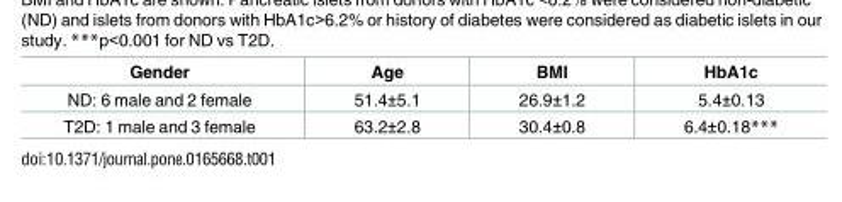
<table><thead><tr><td>Gender</td><td>Age</td><td>BMI</td><td>HbA1c</td></tr></thead><tbody><tr><td>ND: 6 male and 2 female</td><td>51.4±5.1</td><td>26.9±1.2</td><td>5.4±0.13</td></tr><tr><td>T2D: 1 male and 3 female</td><td>63.2±2.8</td><td>30.4±0.8</td><td>6.4±0.18***</td></tr></tbody></table>